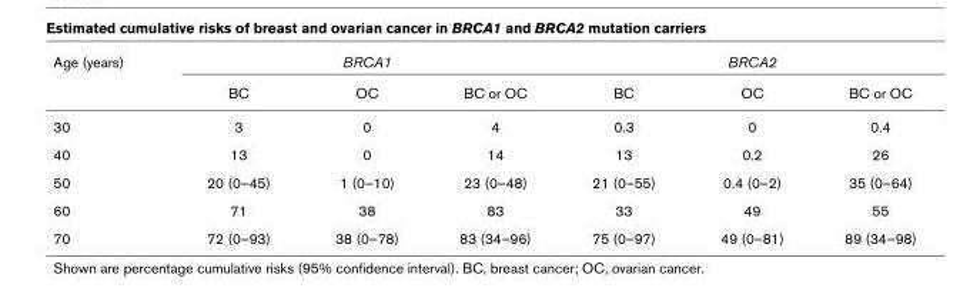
<table><thead><tr><td rowspan="2">Age (years)</td><td colspan="3">BRCA1</td><td colspan="3">BRCA2</td></tr><tr><td>BC</td><td>OC</td><td>BC or OC</td><td>BC</td><td>OC</td><td>BC or OC</td></tr></thead><tbody><tr><td>30</td><td>3</td><td>0</td><td>4</td><td>0.3</td><td>0</td><td>0.4</td></tr><tr><td>40</td><td>13</td><td>0</td><td>14</td><td>13</td><td>0.2</td><td>26</td></tr><tr><td>50</td><td>20 (0–45)</td><td>1 (0–10)</td><td>23 (0–48)</td><td>21 (0–55)</td><td>0.4 (0–2)</td><td>35 (0–64)</td></tr><tr><td>60</td><td>71</td><td>38</td><td>83</td><td>33</td><td>49</td><td>55</td></tr><tr><td>70</td><td>72 (0–93)</td><td>38 (0–78)</td><td>83 (34–96)</td><td>75 (0–97)</td><td>49 (0–81)</td><td>89 (34–98)</td></tr></tbody></table>